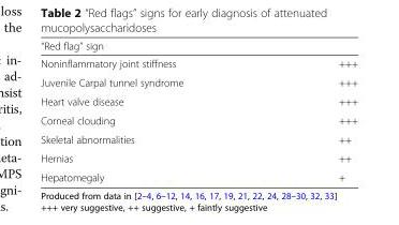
<table><thead><tr><td colspan="2">“Red flag” sign</td></tr><tr><td>Noninflammatory joint stiffness</td><td>+++</td></tr></thead><tbody><tr><td>Juvenile Carpal tunnel syndrome</td><td>+++</td></tr><tr><td>Heart valve disease</td><td>+++</td></tr><tr><td>Corneal clouding</td><td>+++</td></tr><tr><td>Skeletal abnormalities</td><td>++</td></tr><tr><td>Hernias</td><td>++</td></tr><tr><td>Hepatomegaly</td><td>+</td></tr></tbody></table>